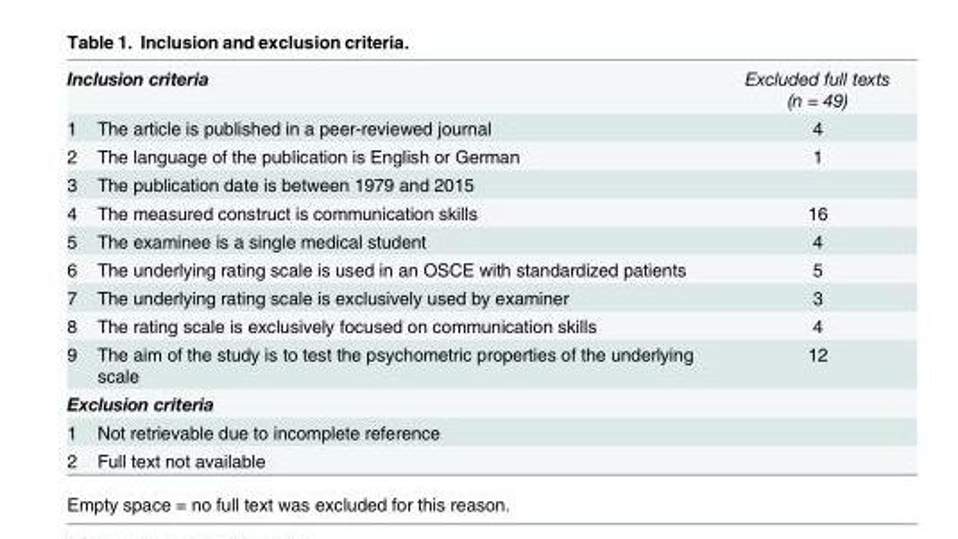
<table><tbody><tr><td colspan="2">Inclusion criteria</td><td>Excluded full texts (n = 49)</td></tr><tr><td>1</td><td>The article is published in a peer-reviewed journal</td><td>4</td></tr><tr><td>2</td><td>The language of the publication is English or German</td><td>1</td></tr><tr><td>3</td><td>The publication date is between 1979 and 2015</td><td></td></tr><tr><td>4</td><td>The measured construct is communication skills</td><td>16</td></tr><tr><td>5</td><td>The examinee is a single medical student</td><td>4</td></tr><tr><td>6</td><td>The underlying rating scale is used in an OSCE with standardized patients</td><td>5</td></tr><tr><td>7</td><td>The underlying rating scale is exclusively used by examiner</td><td>3</td></tr><tr><td>8</td><td>The rating scale is exclusively focused on communication skills</td><td>4</td></tr><tr><td>9</td><td>The aim of the study is to test the psychometric properties of the underlying scale</td><td>12</td></tr><tr><td colspan="3">Exclusion criteria</td></tr><tr><td>1</td><td>Not retrievable due to incomplete reference</td><td></td></tr><tr><td>2</td><td>Full text not available</td><td></td></tr></tbody></table>